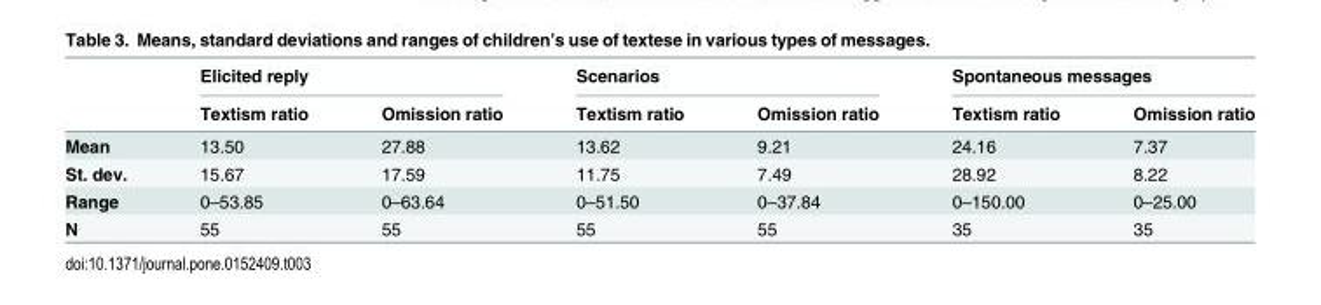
<table><thead><tr><td rowspan="2"></td><td colspan="2">Elicited reply</td><td colspan="2">Scenarios</td><td colspan="2">Spontaneous messages</td></tr><tr><td>Textism ratio</td><td>Omission ratio</td><td>Textism ratio</td><td>Omission ratio</td><td>Textism ratio</td><td>Omission ratio</td></tr></thead><tbody><tr><td>Mean</td><td>13.50</td><td>27.88</td><td>13.62</td><td>9.21</td><td>24.16</td><td>7.37</td></tr><tr><td>St. dev.</td><td>15.67</td><td>17.59</td><td>11.75</td><td>7.49</td><td>28.92</td><td>8.22</td></tr><tr><td>Range</td><td>0–53.85</td><td>0–63.64</td><td>0–51.50</td><td>0–37.84</td><td>0–150.00</td><td>0–25.00</td></tr><tr><td>N</td><td>55</td><td>55</td><td>55</td><td>55</td><td>35</td><td>35</td></tr></tbody></table>